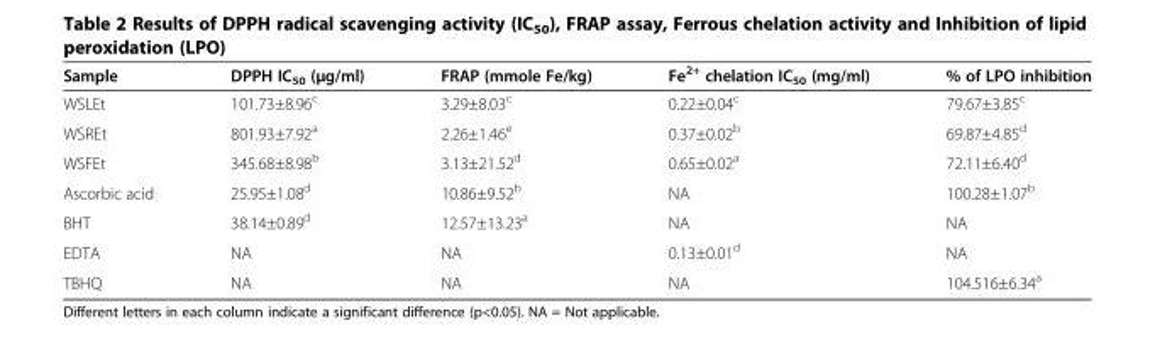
<table><thead><tr><td>Sample</td><td>DPPH IC<sub>50</sub> (μg/ml)</td><td>FRAP (mmole Fe/kg)</td><td>Fe<sup>2+</sup> chelation IC<sub>50</sub> (mg/ml)</td><td>% of LPO inhibition</td></tr></thead><tbody><tr><td>WSLEt</td><td>101.73±8.96<sup>c</sup></td><td>3.29±8.03<sup>c</sup></td><td>0.22±0.04<sup>c</sup></td><td>79.67±3.85<sup>c</sup></td></tr><tr><td>WSREt</td><td>801.93±7.92<sup>a</sup></td><td>2.26±1.46<sup>e</sup></td><td>0.37±0.02<sup>b</sup></td><td>69.87±4.85<sup>d</sup></td></tr><tr><td>WSFEt</td><td>345.68±8.98<sup>b</sup></td><td>3.13±21.52<sup>d</sup></td><td>0.65±0.02<sup>a</sup></td><td>72.11±6.40<sup>d</sup></td></tr><tr><td>Ascorbic acid</td><td>25.95±1.08<sup>d</sup></td><td>10.86±9.52<sup>b</sup></td><td>NA</td><td>100.28±1.07<sup>b</sup></td></tr><tr><td>BHT</td><td>38.14±0.89<sup>d</sup></td><td>12.57±13.23<sup>a</sup></td><td>NA</td><td>NA</td></tr><tr><td>EDTA</td><td>NA</td><td>NA</td><td>0.13±0.01<sup>d</sup></td><td>NA</td></tr><tr><td>TBHQ</td><td>NA</td><td>NA</td><td>NA</td><td>104.516±6.34<sup>a</sup></td></tr></tbody></table>